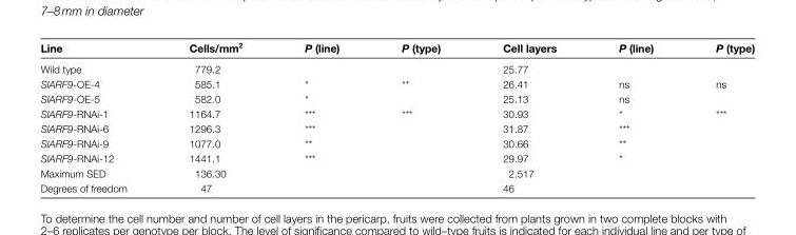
<table><thead><tr><td>Line</td><td>Cells/mm<sup>2</sup></td><td>P (line)</td><td>P (type)</td><td>Cell layers</td><td>P (line)</td><td>P (type)</td></tr></thead><tbody><tr><td>Wild type</td><td>779.2</td><td></td><td></td><td>25.77</td><td></td><td></td></tr><tr><td>SlARF9-OE-4</td><td>585.1</td><td>*</td><td rowspan="2">**</td><td>26.41</td><td>ns</td><td rowspan="2">ns</td></tr><tr><td>SlARF9-OE-5</td><td>582.0</td><td>*</td><td>25.13</td><td>ns</td></tr><tr><td>SlARF9-RNAi-1</td><td>1164.7</td><td>***</td><td rowspan="4">***</td><td>30.93</td><td>*</td><td rowspan="4">***</td></tr><tr><td>SlARF9-RNAi-6</td><td>1296.3</td><td>***</td><td>31.87</td><td>***</td></tr><tr><td>SlARF9-RNAi-9</td><td>1077.0</td><td>**</td><td>30.66</td><td>**</td></tr><tr><td>SlARF9-RNAi-12</td><td>1441.1</td><td>***</td><td>29.97</td><td>*</td></tr><tr><td>Maximum SED</td><td>136.30</td><td></td><td></td><td>2.517</td><td></td><td></td></tr><tr><td>Degrees of freedom</td><td>47</td><td></td><td></td><td>46</td><td></td><td></td></tr></tbody></table>